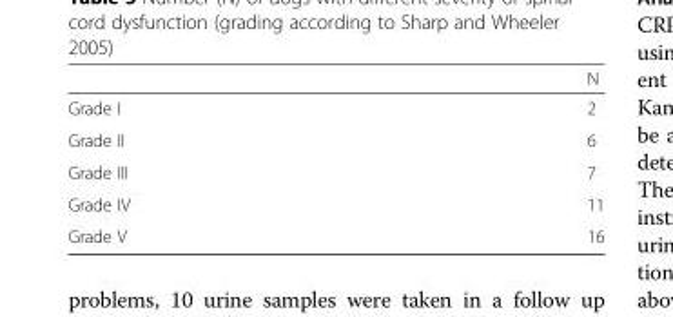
<table><thead><tr><td></td><td>N</td></tr></thead><tbody><tr><td>Grade I</td><td>2</td></tr><tr><td>Grade II</td><td>6</td></tr><tr><td>Grade III</td><td>7</td></tr><tr><td>Grade IV</td><td>11</td></tr><tr><td>Grade V</td><td>16</td></tr></tbody></table>